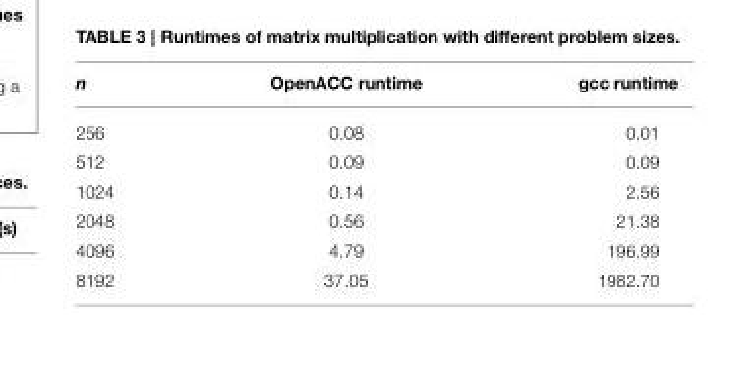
<table><thead><tr><td>n</td><td>OpenACC runtime</td><td>gcc runtime</td></tr></thead><tbody><tr><td>256</td><td>0.08</td><td>0.01</td></tr><tr><td>512</td><td>0.09</td><td>0.09</td></tr><tr><td>1024</td><td>0.14</td><td>2.56</td></tr><tr><td>2048</td><td>0.56</td><td>21.38</td></tr><tr><td>4096</td><td>4.79</td><td>196.99</td></tr><tr><td>8192</td><td>37.05</td><td>1982.70</td></tr></tbody></table>